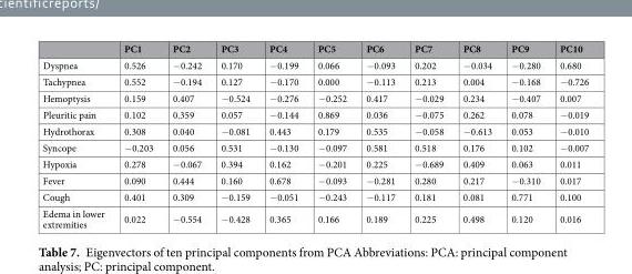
<table><thead><tr><td></td><td>PC1</td><td>PC2</td><td>PC3</td><td>PC4</td><td>PC5</td><td>PC6</td><td>PC7</td><td>PC8</td><td>PC9</td><td>PC10</td></tr></thead><tbody><tr><td>Dyspnea</td><td>0.526</td><td>−0.242</td><td>0.170</td><td>−0.199</td><td>0.066</td><td>−0.093</td><td>0.202</td><td>−0.034</td><td>−0.280</td><td>0.680</td></tr><tr><td>Tachypnea</td><td>0.552</td><td>−0.194</td><td>0.127</td><td>−0.170</td><td>0.000</td><td>−0.113</td><td>0.213</td><td>0.004</td><td>−0.168</td><td>−0.726</td></tr><tr><td>Hemoptysis</td><td>0.159</td><td>0.407</td><td>−0.524</td><td>−0.276</td><td>−0.252</td><td>0.417</td><td>−0.029</td><td>0.234</td><td>−0.407</td><td>0.007</td></tr><tr><td>Pleuritic pain</td><td>0.102</td><td>0.359</td><td>0.057</td><td>−0.144</td><td>0.869</td><td>0.036</td><td>−0.075</td><td>0.262</td><td>0.078</td><td>−0.019</td></tr><tr><td>Hydrothorax</td><td>0.308</td><td>0.040</td><td>−0.081</td><td>0.443</td><td>0.179</td><td>0.535</td><td>−0.058</td><td>−0.613</td><td>0.053</td><td>−0.010</td></tr><tr><td>Syncope</td><td>−0.203</td><td>0.056</td><td>0.531</td><td>−0.130</td><td>−0.097</td><td>0.581</td><td>0.518</td><td>0.176</td><td>0.102</td><td>−0.007</td></tr><tr><td>Hypoxia</td><td>0.278</td><td>−0.067</td><td>0.394</td><td>0.162</td><td>−0.201</td><td>0.225</td><td>−0.689</td><td>0.409</td><td>0.063</td><td>0.011</td></tr><tr><td>Fever</td><td>0.090</td><td>0.444</td><td>0.160</td><td>0.678</td><td>−0.093</td><td>−0.281</td><td>0.280</td><td>0.217</td><td>−0.310</td><td>0.017</td></tr><tr><td>Cough</td><td>0.401</td><td>0.309</td><td>−0.159</td><td>−0.051</td><td>−0.243</td><td>−0.117</td><td>0.181</td><td>0.081</td><td>0.771</td><td>0.100</td></tr><tr><td>Edema in lower extremities</td><td>0.022</td><td>−0.554</td><td>−0.428</td><td>0.365</td><td>0.166</td><td>0.189</td><td>0.225</td><td>0.498</td><td>0.120</td><td>0.016</td></tr></tbody></table>